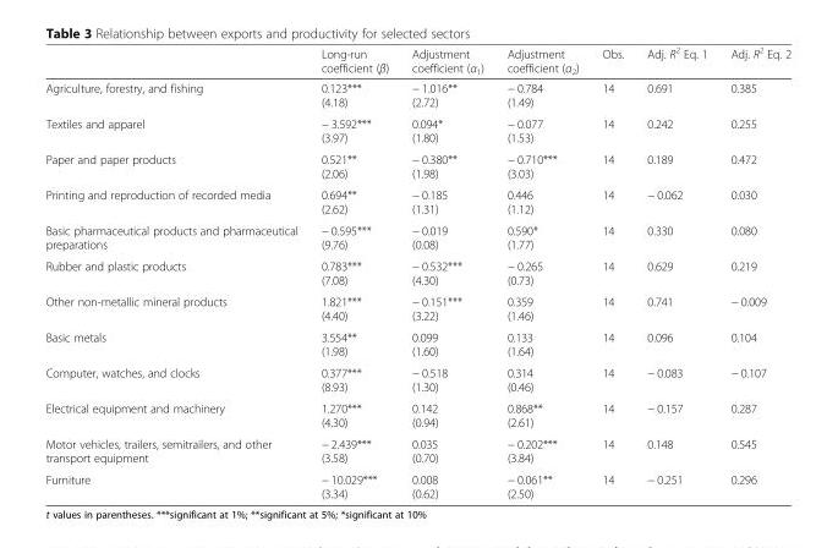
<table><thead><tr><td></td><td>Long-run coefficient (β)</td><td>Adjustment coefficient (α<sub>1</sub>)</td><td>Adjustment coefficient (α<sub>2</sub>)</td><td>Obs.</td><td>Adj. R<sup>2</sup> Eq. 1</td><td>Adj. R<sup>2</sup> Eq. 2</td></tr></thead><tbody><tr><td>Agriculture, forestry, and fishing</td><td>0.123*** (4.18)</td><td>− 1.016** (2.72)</td><td>− 0.784 (1.49)</td><td>14</td><td>0.691</td><td>0.385</td></tr><tr><td>Textiles and apparel</td><td>− 3.592*** (3.97)</td><td>0.094* (1.80)</td><td>− 0.077 (1.53)</td><td>14</td><td>0.242</td><td>0.255</td></tr><tr><td>Paper and paper products</td><td>0.521** (2.06)</td><td>− 0.380** (1.98)</td><td>− 0.710*** (3.03)</td><td>14</td><td>0.189</td><td>0.472</td></tr><tr><td>Printing and reproduction of recorded media</td><td>0.694** (2.62)</td><td>− 0.185 (1.31)</td><td>0.446 (1.12)</td><td>14</td><td>− 0.062</td><td>0.030</td></tr><tr><td>Basic pharmaceutical products and pharmaceutical preparations</td><td>− 0.595*** (9.76)</td><td>− 0.019 (0.08)</td><td>0.590* (1.77)</td><td>14</td><td>0.330</td><td>0.080</td></tr><tr><td>Rubber and plastic products</td><td>0.783*** (7.08)</td><td>− 0.532*** (4.30)</td><td>− 0.265 (0.73)</td><td>14</td><td>0.629</td><td>0.219</td></tr><tr><td>Other non-metallic mineral products</td><td>1.821*** (4.40)</td><td>− 0.151*** (3.22)</td><td>0.359 (1.46)</td><td>14</td><td>0.741</td><td>− 0.009</td></tr><tr><td>Basic metals</td><td>3.554** (1.98)</td><td>0.099 (1.60)</td><td>0.133 (1.64)</td><td>14</td><td>0.096</td><td>0.104</td></tr><tr><td>Computer, watches, and clocks</td><td>0.377*** (8.93)</td><td>− 0.518 (1.30)</td><td>0.314 (0.46)</td><td>14</td><td>− 0.083</td><td>− 0.107</td></tr><tr><td>Electrical equipment and machinery</td><td>1.270*** (4.30)</td><td>0.142 (0.94)</td><td>0.868** (2.61)</td><td>14</td><td>− 0.157</td><td>0.287</td></tr><tr><td>Motor vehicles, trailers, semitrailers, and other transport equipment</td><td>− 2.439*** (3.58)</td><td>0.035 (0.70)</td><td>− 0.202*** (3.84)</td><td>14</td><td>0.148</td><td>0.545</td></tr><tr><td>Furniture</td><td>− 10.029*** (3.34)</td><td>0.008 (0.62)</td><td>− 0.061** (2.50)</td><td>14</td><td>− 0.251</td><td>0.296</td></tr></tbody></table>